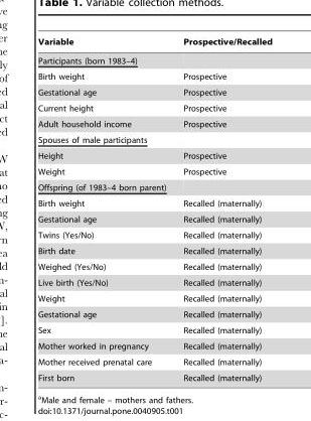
<table><thead><tr><td>Variable</td><td>Prospective/Recalled</td></tr></thead><tbody><tr><td colspan="2">Participants (born 1983–4)</td></tr><tr><td>Birth weight</td><td>Prospective</td></tr><tr><td>Gestational age</td><td>Prospective</td></tr><tr><td>Current height</td><td>Prospective</td></tr><tr><td>Adult household income</td><td>Prospective</td></tr><tr><td colspan="2">Spouses of male participants</td></tr><tr><td>Height</td><td>Prospective</td></tr><tr><td>Weight</td><td>Prospective</td></tr><tr><td colspan="2">Offspring (of 1983–4 born parent)</td></tr><tr><td>Birth weight</td><td>Recalled (maternally)</td></tr><tr><td>Gestational age</td><td>Recalled (maternally)</td></tr><tr><td>Twins (Yes/No)</td><td>Recalled (maternally)</td></tr><tr><td>Birth date</td><td>Recalled (maternally)</td></tr><tr><td>Weighed (Yes/No)</td><td>Recalled (maternally)</td></tr><tr><td>Live birth (Yes/No)</td><td>Recalled (maternally)</td></tr><tr><td>Weight</td><td>Recalled (maternally)</td></tr><tr><td>Gestational age</td><td>Recalled (maternally)</td></tr><tr><td>Sex</td><td>Recalled (maternally)</td></tr><tr><td>Mother worked in pregnancy</td><td>Recalled (maternally)</td></tr><tr><td>Mother received prenatal care</td><td>Recalled (maternally)</td></tr><tr><td>First born</td><td>Recalled (maternally)</td></tr></tbody></table>